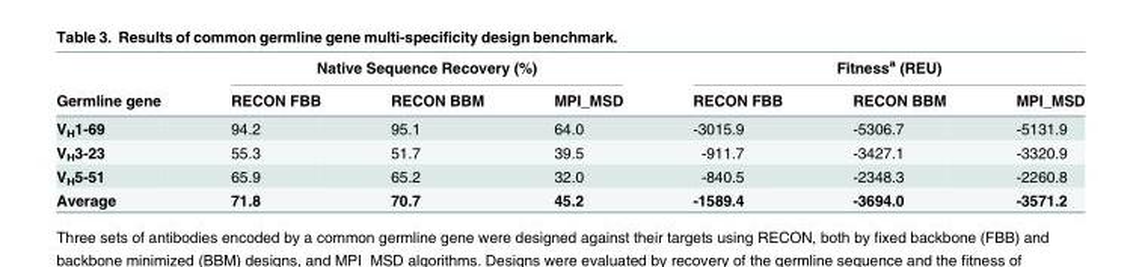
<table><thead><tr><td rowspan="2">Germline gene</td><td colspan="3">Native Sequence Recovery (%)</td><td colspan="3">Fitness<sup>a</sup> (REU)</td></tr><tr><td>RECON FBB</td><td>RECON BBM</td><td>MPI_MSD</td><td>RECON FBB</td><td>RECON BBM</td><td>MPI_MSD</td></tr></thead><tbody><tr><td>V<sub>H</sub>1-69</td><td>94.2</td><td>95.1</td><td>64.0</td><td>-3015.9</td><td>-5306.7</td><td>-5131.9</td></tr><tr><td>V<sub>H</sub>3-23</td><td>55.3</td><td>51.7</td><td>39.5</td><td>-911.7</td><td>-3427.1</td><td>-3320.9</td></tr><tr><td>V<sub>H</sub>5-51</td><td>65.9</td><td>65.2</td><td>32.0</td><td>-840.5</td><td>-2348.3</td><td>-2260.8</td></tr><tr><td>Average</td><td>71.8</td><td>70.7</td><td>45.2</td><td>-1589.4</td><td>-3694.0</td><td>-3571.2</td></tr></tbody></table>